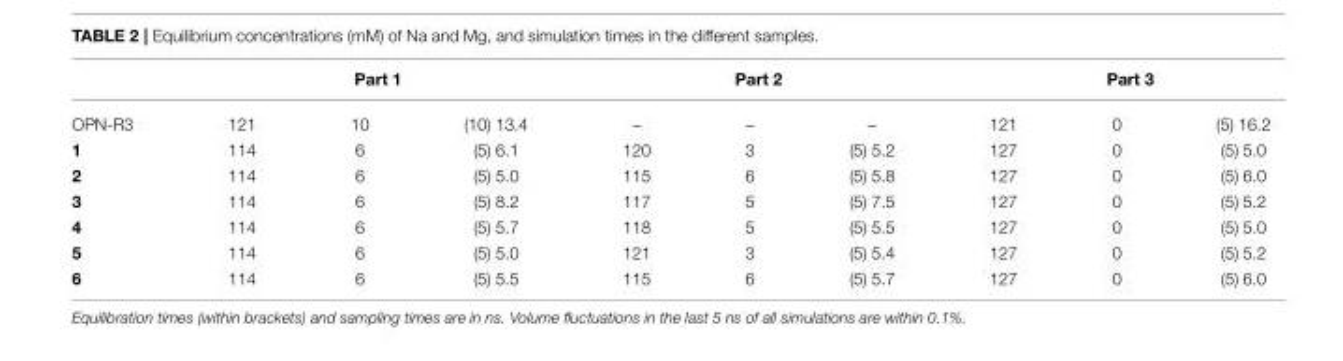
<table><thead><tr><td rowspan="2">OPN-R3</td><td colspan="3">Part 1</td><td colspan="3">Part 2</td><td colspan="3">Part 3</td></tr><tr><td>121</td><td>10</td><td>(10) 13.4</td><td>–</td><td>–</td><td>–</td><td>121</td><td>0</td><td>(5) 16.2</td></tr></thead><tbody><tr><td>1</td><td>114</td><td>6</td><td>(5) 6.1</td><td>120</td><td>3</td><td>(5) 5.2</td><td>127</td><td>0</td><td>(5) 5.0</td></tr><tr><td>2</td><td>114</td><td>6</td><td>(5) 5.0</td><td>115</td><td>6</td><td>(5) 5.8</td><td>127</td><td>0</td><td>(5) 6.0</td></tr><tr><td>3</td><td>114</td><td>6</td><td>(5) 8.2</td><td>117</td><td>5</td><td>(5) 7.5</td><td>127</td><td>0</td><td>(5) 5.2</td></tr><tr><td>4</td><td>114</td><td>6</td><td>(5) 5.7</td><td>118</td><td>5</td><td>(5) 5.5</td><td>127</td><td>0</td><td>(5) 5.0</td></tr><tr><td>5</td><td>114</td><td>6</td><td>(5) 5.0</td><td>121</td><td>3</td><td>(5) 5.4</td><td>127</td><td>0</td><td>(5) 5.2</td></tr><tr><td>6</td><td>114</td><td>6</td><td>(5) 5.5</td><td>115</td><td>6</td><td>(5) 5.7</td><td>127</td><td>0</td><td>(5) 6.0</td></tr></tbody></table>